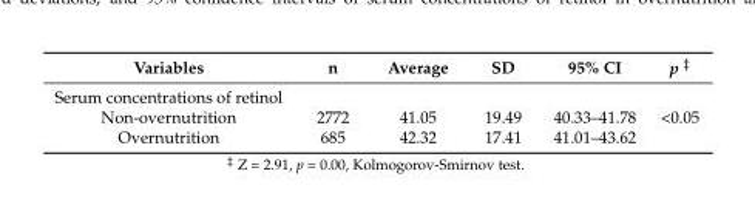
<table><thead><tr><td>Variables</td><td>n</td><td>Average</td><td>SD</td><td>95% CI</td><td>p <sup>‡</sup></td></tr></thead><tbody><tr><td colspan="6">Serum concentrations of retinol</td></tr><tr><td>Non-overnutrition</td><td>2772</td><td>41.05</td><td>19.49</td><td>40.33–41.78</td><td>&lt;0.05</td></tr><tr><td>Overnutrition</td><td>685</td><td>42.32</td><td>17.41</td><td>41.01–43.62</td><td></td></tr></tbody></table>